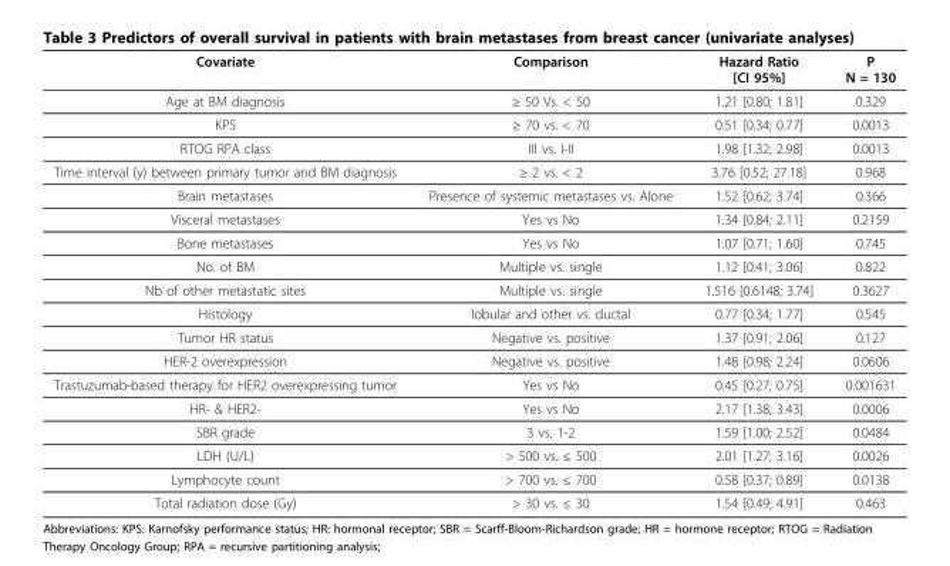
<table><thead><tr><td>Covariate</td><td>Comparison</td><td>Hazard Ratio [CI 95%]</td><td>P N = 130</td></tr></thead><tbody><tr><td>Age at BM diagnosis</td><td>≥ 50 Vs. &lt; 50</td><td>1.21 [0.80; 1.81]</td><td>0.329</td></tr><tr><td>KPS</td><td>≥ 70 vs. &lt; 70</td><td>0.51 [0.34; 0.77]</td><td>0.0013</td></tr><tr><td>RTOG RPA class</td><td>III vs. I-II</td><td>1.98 [1.32; 2.98]</td><td>0.0013</td></tr><tr><td>Time interval (y) between primary tumor and BM diagnosis</td><td>≥ 2 vs. &lt; 2</td><td>3.76 [0.52; 27.18]</td><td>0.968</td></tr><tr><td>Brain metastases</td><td>Presence of systemic metastases vs. Alone</td><td>1.52 [0.62; 3.74]</td><td>0.366</td></tr><tr><td>Visceral metastases</td><td>Yes vs No</td><td>1.34 [0.84; 2.11]</td><td>0.2159</td></tr><tr><td>Bone metastases</td><td>Yes vs No</td><td>1.07 [0.71; 1.60]</td><td>0.745</td></tr><tr><td>No. of BM</td><td>Multiple vs. single</td><td>1.12 [0.41; 3.06]</td><td>0.822</td></tr><tr><td>Nb of other metastatic sites</td><td>Multiple vs. single</td><td>1.516 [0.6148; 3.74]</td><td>0.3627</td></tr><tr><td>Histology</td><td>lobular and other vs. ductal</td><td>0.77 [0.34; 1.77]</td><td>0.545</td></tr><tr><td>Tumor HR status</td><td>Negative vs. positive</td><td>1.37 [0.91; 2.06]</td><td>0.127</td></tr><tr><td>HER-2 overexpression</td><td>Negative vs. positive</td><td>1.48 [0.98; 2.24]</td><td>0.0606</td></tr><tr><td>Trastuzumab-based therapy for HER2 overexpressing tumor</td><td>Yes vs No</td><td>0.45 [0.27; 0.75]</td><td>0.001631</td></tr><tr><td>HR- &amp; HER2-</td><td>Yes vs No</td><td>2.17 [1.38; 3.43]</td><td>0.0006</td></tr><tr><td>SBR grade</td><td>3 vs. 1-2</td><td>1.59 [1.00; 2.52]</td><td>0.0484</td></tr><tr><td>LDH (U/L)</td><td>&gt; 500 vs. ≤ 500</td><td>2.01 [1.27; 3.16]</td><td>0.0026</td></tr><tr><td>Lymphocyte count</td><td>&gt; 700 vs. ≤ 700</td><td>0.58 [0.37; 0.89]</td><td>0.0138</td></tr><tr><td>Total radiation dose (Gy)</td><td>&gt; 30 vs. ≤ 30</td><td>1.54 [0.49; 4.91]</td><td>0.463</td></tr></tbody></table>